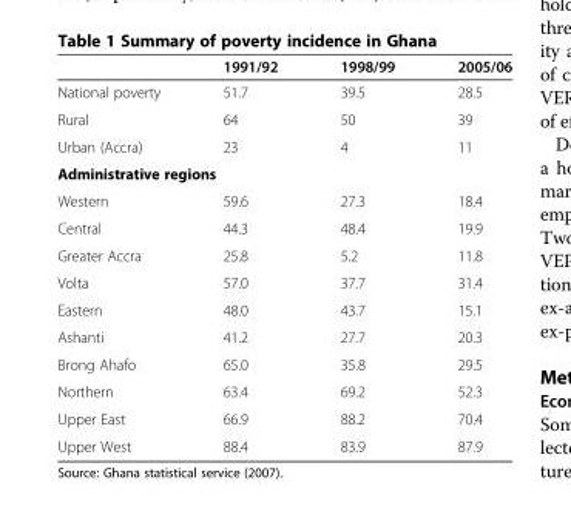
<table><thead><tr><td></td><td>1991/92</td><td>1998/99</td><td>2005/06</td></tr></thead><tbody><tr><td>National poverty</td><td>51.7</td><td>39.5</td><td>28.5</td></tr><tr><td>Rural</td><td>64</td><td>50</td><td>39</td></tr><tr><td>Urban (Accra)</td><td>23</td><td>4</td><td>11</td></tr><tr><td colspan="4">Administrative regions</td></tr><tr><td>Western</td><td>59.6</td><td>27.3</td><td>18.4</td></tr><tr><td>Central</td><td>44.3</td><td>48.4</td><td>19.9</td></tr><tr><td>Greater Accra</td><td>25.8</td><td>5.2</td><td>11.8</td></tr><tr><td>Volta</td><td>57.0</td><td>37.7</td><td>31.4</td></tr><tr><td>Eastern</td><td>48.0</td><td>43.7</td><td>15.1</td></tr><tr><td>Ashanti</td><td>41.2</td><td>27.7</td><td>20.3</td></tr><tr><td>Brong Ahafo</td><td>65.0</td><td>35.8</td><td>29.5</td></tr><tr><td>Northern</td><td>63.4</td><td>69.2</td><td>52.3</td></tr><tr><td>Upper East</td><td>66.9</td><td>88.2</td><td>70.4</td></tr><tr><td>Upper West</td><td>88.4</td><td>83.9</td><td>87.9</td></tr></tbody></table>